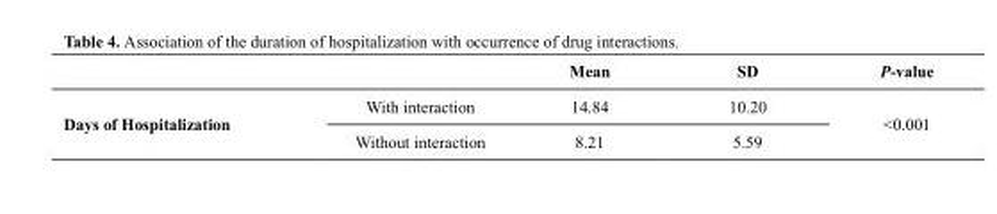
<table><thead><tr><td></td><td></td><td>Mean</td><td>SD</td><td>P-value</td></tr></thead><tbody><tr><td rowspan="2">Days of Hospitalization</td><td>With interaction</td><td>14.84</td><td>10.20</td><td rowspan="2">&lt;0.001</td></tr><tr><td>Without interaction</td><td>8.21</td><td>5.59</td></tr></tbody></table>